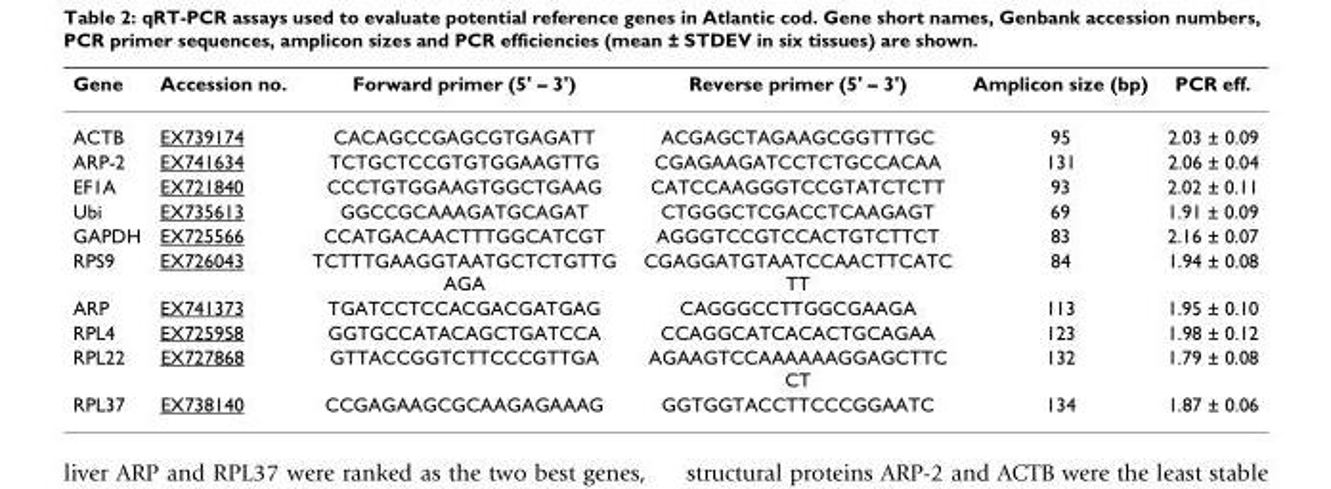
<table><thead><tr><td>Gene</td><td>Accession no.</td><td>Forward primer (5&#x27; – 3&#x27;)</td><td>Reverse primer (5&#x27; – 3&#x27;)</td><td>Amplicon size (bp)</td><td>PCR eff.</td></tr></thead><tbody><tr><td>ACTB</td><td>EX739174</td><td>CACAGCCGAGCGTGAGATT</td><td>ACGAGCTAGAAGCGGTTTGC</td><td>95</td><td>2.03 ± 0.09</td></tr><tr><td>ARP-2</td><td>EX741634</td><td>TCTGCTCCGTGTGGAAGTTG</td><td>CGAGAAGATCCTCTGCCACAA</td><td>131</td><td>2.06 ± 0.04</td></tr><tr><td>EF1A</td><td>EX721840</td><td>CCCTGTGGAAGTGGCTGAAG</td><td>CATCCAAGGGTCCGTATCTCTT</td><td>93</td><td>2.02 ± 0.11</td></tr><tr><td>Ubi</td><td>EX735613</td><td>GGCCGCAAAGATGCAGAT</td><td>CTGGGCTCGACCTCAAGAGT</td><td>69</td><td>1.91 ± 0.09</td></tr><tr><td>GAPDH</td><td>EX725566</td><td>CCATGACAACTTTGGCATCGT</td><td>AGGGTCCGTCCACTGTCTTCT</td><td>83</td><td>2.16 ± 0.07</td></tr><tr><td>RPS9</td><td>EX726043</td><td>TCTTTGAAGGTAATGCTCTGTTG AGA</td><td>CGAGGATGTAATCCAACTTCATC TT</td><td>84</td><td>1.94 ± 0.08</td></tr><tr><td>ARP</td><td>EX741373</td><td>TGATCCTCCACGACGATGAG</td><td>CAGGGCCTTGGCGAAGA</td><td>113</td><td>1.95 ± 0.10</td></tr><tr><td>RPL4</td><td>EX725958</td><td>GGTGCCATACAGCTGATCCA</td><td>CCAGGCATCACACTGCAGAA</td><td>123</td><td>1.98 ± 0.12</td></tr><tr><td>RPL22</td><td>EX727868</td><td>GTTACCGGTCTTCCCGTTGA</td><td>AGAAGTCCAAAAAAGGAGCTTC CT</td><td>132</td><td>1.79 ± 0.08</td></tr><tr><td>RPL37</td><td>EX738140</td><td>CCGAGAAGCGCAAGAGAAAG</td><td>GGTGGTACCTTCCCGGAATC</td><td>134</td><td>1.87 ± 0.06</td></tr></tbody></table>